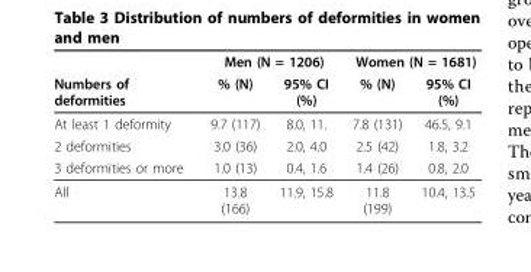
<table><thead><tr><td rowspan="2">Numbers of deformities</td><td colspan="2">Men (N = 1206)</td><td colspan="2">Women (N = 1681)</td></tr><tr><td>% (N)</td><td>95% CI (%)</td><td>% (N)</td><td>95% CI (%)</td></tr></thead><tbody><tr><td>At least 1 deformity</td><td>9.7 (117)</td><td>8.0, 11.</td><td>7.8 (131)</td><td>46.5, 9.1</td></tr><tr><td>2 deformities</td><td>3.0 (36)</td><td>2.0, 4.0</td><td>2.5 (42)</td><td>1.8, 3.2</td></tr><tr><td>3 deformities or more</td><td>1.0 (13)</td><td>0.4, 1.6</td><td>1.4 (26)</td><td>0.8, 2.0</td></tr><tr><td>All</td><td>13.8 (166)</td><td>11.9, 15.8</td><td>11.8 (199)</td><td>10.4, 13.5</td></tr></tbody></table>